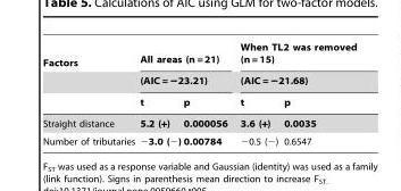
<table><thead><tr><td rowspan="3">Factors</td><td rowspan="2" colspan="2">All areas (n = 21) (AIC = −23.21)</td><td rowspan="2" colspan="2">When TL2 was removed (n = 15) (AIC = −21.68)</td></tr><tr></tr><tr><td>t</td><td>p</td><td>t</td><td>p</td></tr></thead><tbody><tr><td>Straight distance</td><td>5.2 (+)</td><td>0.000056</td><td>3.6 (+)</td><td>0.0035</td></tr><tr><td>Number of tributaries</td><td>−3.0 (−)</td><td>0.00784</td><td>−0.5 (−)</td><td>0.6547</td></tr></tbody></table>